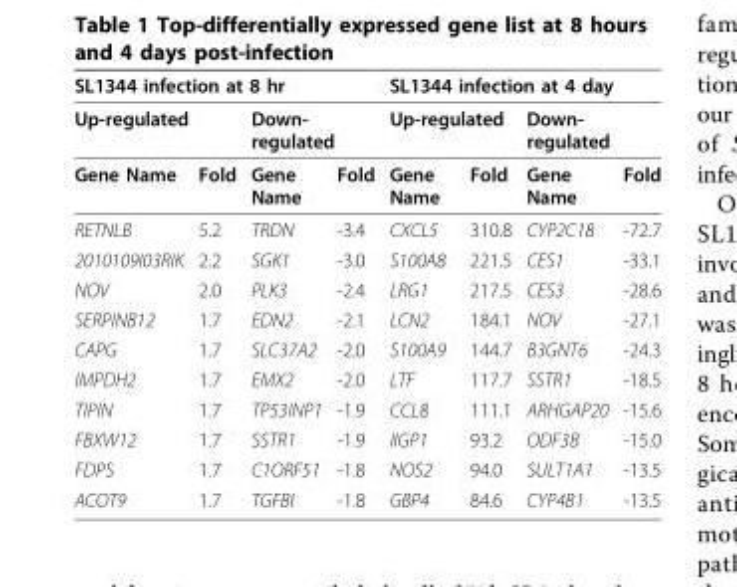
<table><thead><tr><td colspan="4">SL1344 infection at 8 hr</td><td colspan="4">SL1344 infection at 4 day</td></tr><tr><td colspan="2">Up-regulated</td><td colspan="2">Down- regulated</td><td colspan="2">Up-regulated</td><td colspan="2">Down- regulated</td></tr><tr><td>Gene Name</td><td>Fold</td><td>Gene Name</td><td>Fold</td><td>Gene Name</td><td>Fold</td><td>Gene Name</td><td>Fold</td></tr></thead><tbody><tr><td>RETNLB</td><td>5.2</td><td>TRDN</td><td>-3.4</td><td>CXCL5</td><td>310.8</td><td>CYP2C18</td><td>-72.7</td></tr><tr><td>2010109I03RIK</td><td>2.2</td><td>SGK1</td><td>-3.0</td><td>S100A8</td><td>221.5</td><td>CES1</td><td>-33.1</td></tr><tr><td>NOV</td><td>2.0</td><td>PLK3</td><td>-2.4</td><td>LRG1</td><td>217.5</td><td>CES3</td><td>-28.6</td></tr><tr><td>SERPINB12</td><td>1.7</td><td>EDN2</td><td>-2.1</td><td>LCN2</td><td>184.1</td><td>NOV</td><td>-27.1</td></tr><tr><td>CAPG</td><td>1.7</td><td>SLC37A2</td><td>-2.0</td><td>S100A9</td><td>144.7</td><td>B3GNT6</td><td>-24.3</td></tr><tr><td>IMPDH2</td><td>1.7</td><td>EMX2</td><td>-2.0</td><td>LTF</td><td>117.7</td><td>SSTR1</td><td>-18.5</td></tr><tr><td>TIPIN</td><td>1.7</td><td>TP53INP1</td><td>-1.9</td><td>CCL8</td><td>111.1</td><td>ARHGAP20</td><td>-15.6</td></tr><tr><td>FBXW12</td><td>1.7</td><td>SSTR1</td><td>-1.9</td><td>IIGP1</td><td>93.2</td><td>ODF3B</td><td>-15.0</td></tr><tr><td>FDPS</td><td>1.7</td><td>C1ORF51</td><td>-1.8</td><td>NOS2</td><td>94.0</td><td>SULT1A1</td><td>-13.5</td></tr><tr><td>ACOT9</td><td>1.7</td><td>TGFBI</td><td>-1.8</td><td>GBP4</td><td>84.6</td><td>CYP4B1</td><td>-13.5</td></tr></tbody></table>